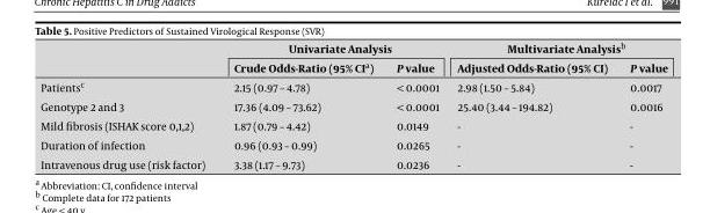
<table><thead><tr><td rowspan="2"></td><td colspan="2">Univariate Analysis</td><td colspan="2">Multivariate Analysis<sup>b</sup></td></tr><tr><td>Crude Odds-Ratio (95% CI<sup>a</sup>)</td><td>P value</td><td>Adjusted Odds-Ratio (95% CI)</td><td>P value</td></tr></thead><tbody><tr><td>Patients<sup>c</sup></td><td>2.15 (0.97 – 4.78)</td><td>&lt; 0.0001</td><td>2.98 (1.50 – 5.84)</td><td>0.0017</td></tr><tr><td>Genotype 2 and 3</td><td>17.36 (4.09 – 73.62)</td><td>&lt; 0.0001</td><td>25.40 (3.44 – 194.82)</td><td>0.0016</td></tr><tr><td>Mild fibrosis (ISHAK score 0,1,2)</td><td>1.87 (0.79 – 4.42)</td><td>0.0149</td><td>-</td><td>-</td></tr><tr><td>Duration of infection</td><td>0.96 (0.93 – 0.99)</td><td>0.0265</td><td>-</td><td>-</td></tr><tr><td>Intravenous drug use (risk factor)</td><td>3.38 (1.17 – 9.73)</td><td>0.0236</td><td>-</td><td>-</td></tr></tbody></table>